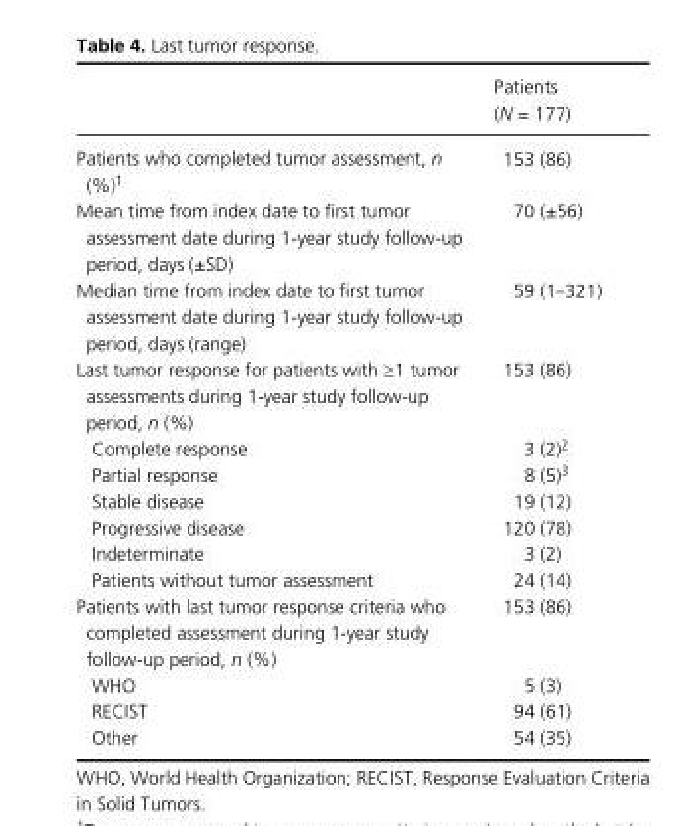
<table><thead><tr><td></td><td>Patients (N = 177)</td></tr></thead><tbody><tr><td>Patients who completed tumor assessment, n (%)1</td><td>153 (86)</td></tr><tr><td>Mean time from index date to first tumor assessment date during 1- year study follow- up period, days (±SD)</td><td>70 (±56)</td></tr><tr><td>Median time from index date to first tumor assessment date during 1- year study follow- up period, days (range)</td><td>59 (1–321)</td></tr><tr><td>Last tumor response for patients with ≥1 tumor assessments during 1- year study follow- up period, n (%)</td><td>153 (86)</td></tr><tr><td>Complete response</td><td>3 (2)2</td></tr><tr><td>Partial response</td><td>8 (5)3</td></tr><tr><td>Stable disease</td><td>19 (12)</td></tr><tr><td>Progressive disease</td><td>120 (78)</td></tr><tr><td>Indeterminate</td><td>3 (2)</td></tr><tr><td>Patients without tumor assessment</td><td>24 (14)</td></tr><tr><td>Patients with last tumor response criteria who completed assessment during 1- year study follow- up period, n (%)</td><td>153 (86)</td></tr><tr><td>WHO</td><td>5 (3)</td></tr><tr><td>RECIST</td><td>94 (61)</td></tr><tr><td>Other</td><td>54 (35)</td></tr></tbody></table>